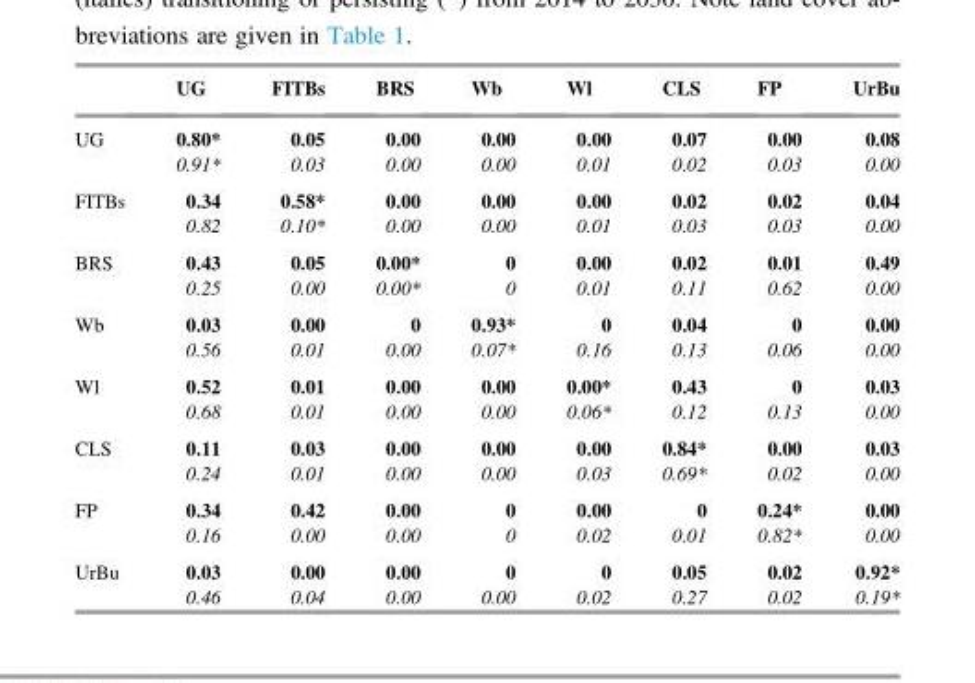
<table><thead><tr><td></td><td>UG</td><td>FITBs</td><td>BRS</td><td>Wb</td><td>Wl</td><td>CLS</td><td>FP</td><td>UrBu</td></tr></thead><tbody><tr><td rowspan="2">UG</td><td>0.80*</td><td>0.05</td><td>0.00</td><td>0.00</td><td>0.00</td><td>0.07</td><td>0.00</td><td>0.08</td></tr><tr><td>0.91*</td><td>0.03</td><td>0.00</td><td>0.00</td><td>0.01</td><td>0.02</td><td>0.03</td><td>0.00</td></tr><tr><td rowspan="2">FITBs</td><td>0.34</td><td>0.58*</td><td>0.00</td><td>0.00</td><td>0.00</td><td>0.02</td><td>0.02</td><td>0.04</td></tr><tr><td>0.82</td><td>0.10*</td><td>0.00</td><td>0.00</td><td>0.01</td><td>0.03</td><td>0.03</td><td>0.00</td></tr><tr><td rowspan="2">BRS</td><td>0.43</td><td>0.05</td><td>0.00*</td><td>0</td><td>0.00</td><td>0.02</td><td>0.01</td><td>0.49</td></tr><tr><td>0.25</td><td>0.00</td><td>0.00*</td><td>0</td><td>0.01</td><td>0.11</td><td>0.62</td><td>0.00</td></tr><tr><td rowspan="2">Wb</td><td>0.03</td><td>0.00</td><td>0</td><td>0.93*</td><td>0</td><td>0.04</td><td>0</td><td>0.00</td></tr><tr><td>0.56</td><td>0.01</td><td>0.00</td><td>0.07*</td><td>0.16</td><td>0.13</td><td>0.06</td><td>0.00</td></tr><tr><td rowspan="2">Wl</td><td>0.52</td><td>0.01</td><td>0.00</td><td>0.00</td><td>0.00*</td><td>0.43</td><td>0</td><td>0.03</td></tr><tr><td>0.68</td><td>0.01</td><td>0.00</td><td>0.00</td><td>0.06*</td><td>0.12</td><td>0.13</td><td>0.00</td></tr><tr><td rowspan="2">CLS</td><td>0.11</td><td>0.03</td><td>0.00</td><td>0.00</td><td>0.00</td><td>0.84*</td><td>0.00</td><td>0.03</td></tr><tr><td>0.24</td><td>0.01</td><td>0.00</td><td>0.00</td><td>0.03</td><td>0.69*</td><td>0.02</td><td>0.00</td></tr><tr><td rowspan="2">FP</td><td>0.34</td><td>0.42</td><td>0.00</td><td>0</td><td>0.00</td><td>0</td><td>0.24*</td><td>0.00</td></tr><tr><td>0.16</td><td>0.00</td><td>0.00</td><td>0</td><td>0.02</td><td>0.01</td><td>0.82*</td><td>0.00</td></tr><tr><td rowspan="2">UrBu</td><td>0.03</td><td>0.00</td><td>0.00</td><td>0</td><td>0</td><td>0.05</td><td>0.02</td><td>0.92*</td></tr><tr><td>0.46</td><td>0.04</td><td>0.00</td><td>0.00</td><td>0.02</td><td>0.27</td><td>0.02</td><td>0.19*</td></tr></tbody></table>